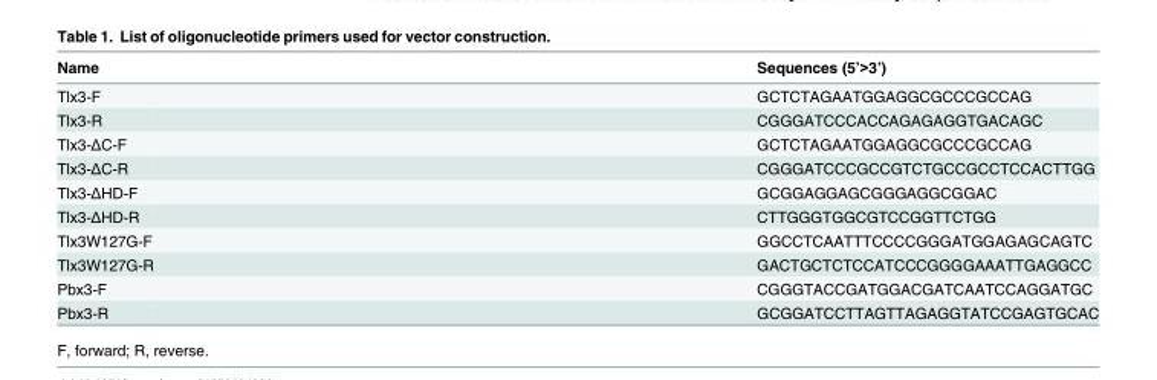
<table><thead><tr><td>Name</td><td>Sequences (5’&gt;3’)</td></tr></thead><tbody><tr><td>Tlx3-F</td><td>GCTCTAGAATGGAGGCGCCCGCCAG</td></tr><tr><td>Tlx3-R</td><td>CGGGATCCCACCAGAGAGGTGACAGC</td></tr><tr><td>Tlx3-ΔC-F</td><td>GCTCTAGAATGGAGGCGCCCGCCAG</td></tr><tr><td>Tlx3-ΔC-R</td><td>CGGGATCCCGCCGTCTGCCGCCTCCACTTGG</td></tr><tr><td>Tlx3-ΔHD-F</td><td>GCGGAGGAGCGGGAGGCGGAC</td></tr><tr><td>Tlx3-ΔHD-R</td><td>CTTGGGTGGCGTCCGGTTCTGG</td></tr><tr><td>Tlx3W127G-F</td><td>GGCCTCAATTTCCCCGGGATGGAGAGCAGTC</td></tr><tr><td>Tlx3W127G-R</td><td>GACTGCTCTCCATCCCGGGGAAATTGAGGCC</td></tr><tr><td>Pbx3-F</td><td>CGGGTACCGATGGACGATCAATCCAGGATGC</td></tr><tr><td>Pbx3-R</td><td>GCGGATCCTTAGTTAGAGGTATCCGAGTGCAC</td></tr></tbody></table>